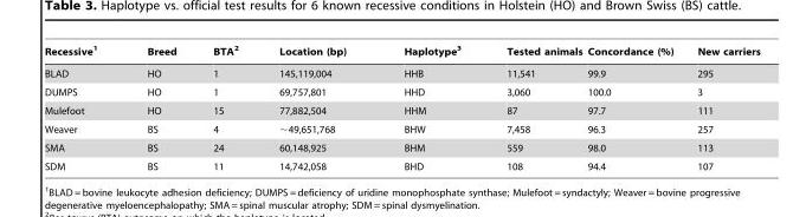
<table><thead><tr><td>Recessive<sup>1</sup></td><td>Breed</td><td>BTA<sup>2</sup></td><td>Location (bp)</td><td>Haplotype<sup>3</sup></td><td>Tested animals</td><td>Concordance (%)</td><td>New carriers</td></tr></thead><tbody><tr><td>BLAD</td><td>HO</td><td>1</td><td>145,119,004</td><td>HHB</td><td>11,541</td><td>99.9</td><td>295</td></tr><tr><td>DUMPS</td><td>HO</td><td>1</td><td>69,757,801</td><td>HHD</td><td>3,060</td><td>100.0</td><td>3</td></tr><tr><td>Mulefoot</td><td>HO</td><td>15</td><td>77,882,504</td><td>HHM</td><td>87</td><td>97.7</td><td>111</td></tr><tr><td>Weaver</td><td>BS</td><td>4</td><td>∼49,651,768</td><td>BHW</td><td>7,458</td><td>96.3</td><td>257</td></tr><tr><td>SMA</td><td>BS</td><td>24</td><td>60,148,925</td><td>BHM</td><td>559</td><td>98.0</td><td>113</td></tr><tr><td>SDM</td><td>BS</td><td>11</td><td>14,742,058</td><td>BHD</td><td>108</td><td>94.4</td><td>107</td></tr></tbody></table>